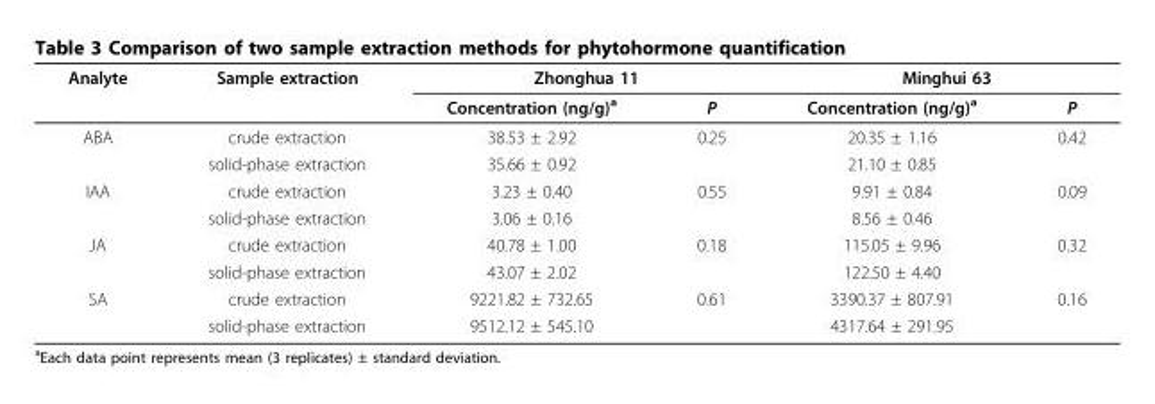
<table><thead><tr><td rowspan="2">Analyte</td><td rowspan="2">Sample extraction</td><td colspan="2">Zhonghua 11</td><td colspan="2">Minghui 63</td></tr><tr><td>Concentration (ng/g)<sup>a</sup></td><td>P</td><td>Concentration (ng/g)<sup>a</sup></td><td>P</td></tr></thead><tbody><tr><td rowspan="2">ABA</td><td>crude extraction</td><td>38.53 ± 2.92</td><td>0.25</td><td>20.35 ± 1.16</td><td>0.42</td></tr><tr><td>solid-phase extraction</td><td>35.66 ± 0.92</td><td></td><td>21.10 ± 0.85</td><td></td></tr><tr><td rowspan="2">IAA</td><td>crude extraction</td><td>3.23 ± 0.40</td><td>0.55</td><td>9.91 ± 0.84</td><td>0.09</td></tr><tr><td>solid-phase extraction</td><td>3.06 ± 0.16</td><td></td><td>8.56 ± 0.46</td><td></td></tr><tr><td rowspan="2">JA</td><td>crude extraction</td><td>40.78 ± 1.00</td><td>0.18</td><td>115.05 ± 9.96</td><td>0.32</td></tr><tr><td>solid-phase extraction</td><td>43.07 ± 2.02</td><td></td><td>122.50 ± 4.40</td><td></td></tr><tr><td rowspan="2">SA</td><td>crude extraction</td><td>9221.82 ± 732.65</td><td>0.61</td><td>3390.37 ± 807.91</td><td>0.16</td></tr><tr><td>solid-phase extraction</td><td>9512.12 ± 545.10</td><td></td><td>4317.64 ± 291.95</td><td></td></tr></tbody></table>